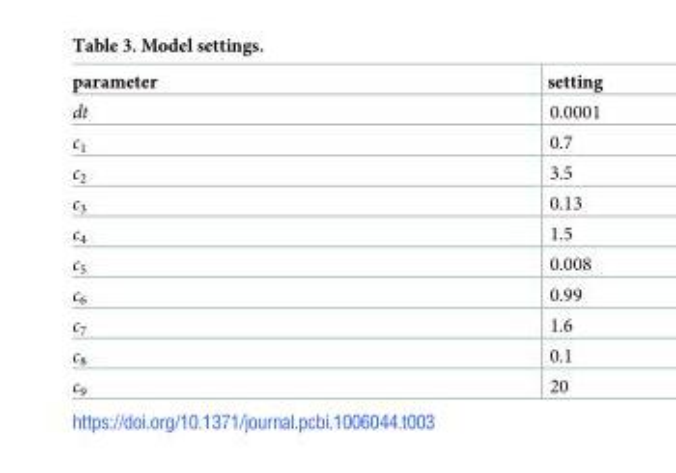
<table><thead><tr><td>parameter</td><td>setting</td></tr></thead><tbody><tr><td>dt</td><td>0.0001</td></tr><tr><td>c<sub>1</sub></td><td>0.7</td></tr><tr><td>c<sub>2</sub></td><td>3.5</td></tr><tr><td>c<sub>3</sub></td><td>0.13</td></tr><tr><td>c<sub>4</sub></td><td>1.5</td></tr><tr><td>c<sub>5</sub></td><td>0.008</td></tr><tr><td>c<sub>6</sub></td><td>0.99</td></tr><tr><td>c<sub>7</sub></td><td>1.6</td></tr><tr><td>c<sub>8</sub></td><td>0.1</td></tr><tr><td>c<sub>9</sub></td><td>20</td></tr></tbody></table>